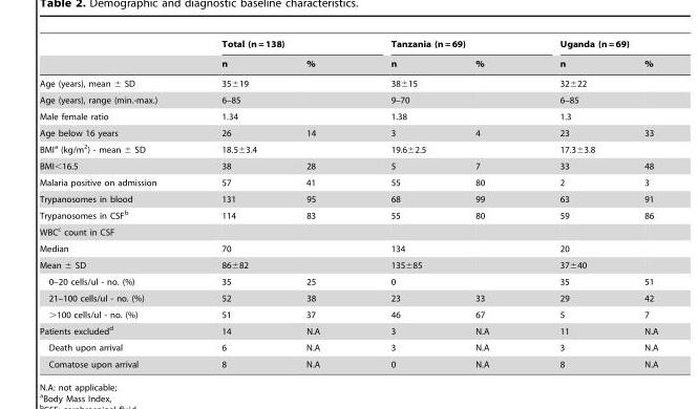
<table><thead><tr><td rowspan="2"></td><td colspan="2">Total (n = 138)</td><td colspan="2">Tanzania (n = 69)</td><td colspan="2">Uganda (n = 69)</td></tr><tr><td>n</td><td>%</td><td>n</td><td>%</td><td>n</td><td>%</td></tr></thead><tbody><tr><td>Age (years), mean ± SD</td><td>35±19</td><td></td><td>38±15</td><td></td><td>32±22</td><td></td></tr><tr><td>Age (years), range (min.-max.)</td><td>6–85</td><td></td><td>9–70</td><td></td><td>6–85</td><td></td></tr><tr><td>Male female ratio</td><td>1.34</td><td></td><td>1.38</td><td></td><td>1.3</td><td></td></tr><tr><td>Age below 16 years</td><td>26</td><td>14</td><td>3</td><td>4</td><td>23</td><td>33</td></tr><tr><td>BMI<sup>a</sup> (kg/m<sup>2</sup>) - mean ± SD</td><td>18.5±3.4</td><td></td><td>19.6±2.5</td><td></td><td>17.3±3.8</td><td></td></tr><tr><td>BMI&lt;16.5</td><td>38</td><td>28</td><td>5</td><td>7</td><td>33</td><td>48</td></tr><tr><td>Malaria positive on admission</td><td>57</td><td>41</td><td>55</td><td>80</td><td>2</td><td>3</td></tr><tr><td>Trypanosomes in blood</td><td>131</td><td>95</td><td>68</td><td>99</td><td>63</td><td>91</td></tr><tr><td>Trypanosomes in CSF<sup>b</sup></td><td>114</td><td>83</td><td>55</td><td>80</td><td>59</td><td>86</td></tr><tr><td colspan="7">WBC<sup>c</sup> count in CSF</td></tr><tr><td>Median</td><td>70</td><td></td><td>134</td><td></td><td>20</td><td></td></tr><tr><td>Mean ± SD</td><td>86±82</td><td></td><td>135±85</td><td></td><td>37±40</td><td></td></tr><tr><td>0–20 cells/ul - no. (%)</td><td>35</td><td>25</td><td>0</td><td></td><td>35</td><td>51</td></tr><tr><td>21–100 cells/ul - no. (%)</td><td>52</td><td>38</td><td>23</td><td>33</td><td>29</td><td>42</td></tr><tr><td>&gt;100 cells/ul - no. (%)</td><td>51</td><td>37</td><td>46</td><td>67</td><td>5</td><td>7</td></tr><tr><td>Patients excluded<sup>d</sup></td><td>14</td><td>N.A</td><td>3</td><td>N.A</td><td>11</td><td>N.A</td></tr><tr><td>Death upon arrival</td><td>6</td><td>N.A</td><td>3</td><td>N.A</td><td>3</td><td>N.A</td></tr><tr><td>Comatose upon arrival</td><td>8</td><td>N.A</td><td>0</td><td>N.A</td><td>8</td><td>N.A</td></tr></tbody></table>